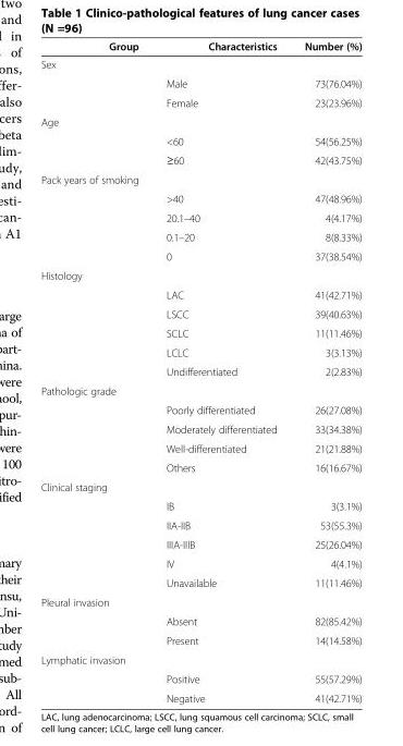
<table><thead><tr><td>Group</td><td>Characteristics</td><td>Number (%)</td></tr></thead><tbody><tr><td colspan="3">Sex</td></tr><tr><td></td><td>Male</td><td>73(76.04%)</td></tr><tr><td></td><td>Female</td><td>23(23.96%)</td></tr><tr><td colspan="3">Age</td></tr><tr><td></td><td>&lt;60</td><td>54(56.25%)</td></tr><tr><td></td><td>≥60</td><td>42(43.75%)</td></tr><tr><td colspan="3">Pack years of smoking</td></tr><tr><td></td><td>&gt;40</td><td>47(48.96%)</td></tr><tr><td></td><td>20.1–40</td><td>4(4.17%)</td></tr><tr><td></td><td>0.1–20</td><td>8(8.33%)</td></tr><tr><td></td><td>0</td><td>37(38.54%)</td></tr><tr><td colspan="3">Histology</td></tr><tr><td></td><td>LAC</td><td>41(42.71%)</td></tr><tr><td></td><td>LSCC</td><td>39(40.63%)</td></tr><tr><td></td><td>SCLC</td><td>11(11.46%)</td></tr><tr><td></td><td>LCLC</td><td>3(3.13%)</td></tr><tr><td></td><td>Undifferentiated</td><td>2(2.83%)</td></tr><tr><td colspan="3">Pathologic grade</td></tr><tr><td></td><td>Poorly differentiated</td><td>26(27.08%)</td></tr><tr><td></td><td>Moderately differentiated</td><td>33(34.38%)</td></tr><tr><td></td><td>Well-differentiated</td><td>21(21.88%)</td></tr><tr><td></td><td>Others</td><td>16(16.67%)</td></tr><tr><td colspan="3">Clinical staging</td></tr><tr><td></td><td>IB</td><td>3(3.1%)</td></tr><tr><td></td><td>IIA-IIB</td><td>53(55.3%)</td></tr><tr><td></td><td>IIIA-IIIB</td><td>25(26.04%)</td></tr><tr><td></td><td>IV</td><td>4(4.1%)</td></tr><tr><td></td><td>Unavailable</td><td>11(11.46%)</td></tr><tr><td colspan="3">Pleural invasion</td></tr><tr><td></td><td>Absent</td><td>82(85.42%)</td></tr><tr><td></td><td>Present</td><td>14(14.58%)</td></tr><tr><td colspan="3">Lymphatic invasion</td></tr><tr><td></td><td>Positive</td><td>55(57.29%)</td></tr><tr><td></td><td>Negative</td><td>41(42.71%)</td></tr></tbody></table>